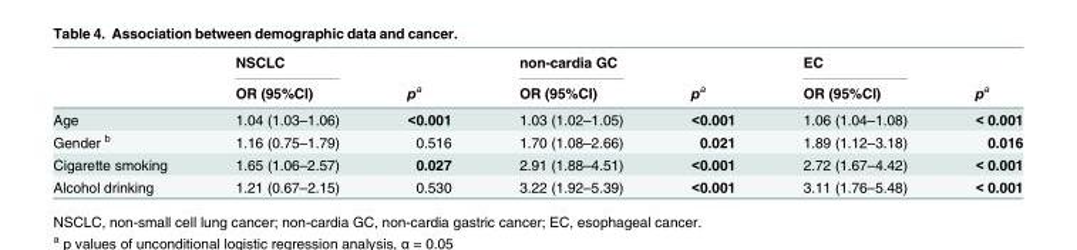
<table><thead><tr><td rowspan="2"></td><td rowspan="2">NSCLC OR (95%CI)</td><td rowspan="2">p<sup>a</sup></td><td rowspan="2">non-cardia GC OR (95%CI)</td><td rowspan="2">p<sup>a</sup></td><td rowspan="2">EC OR (95%CI)</td><td rowspan="2">p<sup>a</sup></td></tr><tr></tr></thead><tbody><tr><td>Age</td><td>1.04 (1.03–1.06)</td><td>&lt;0.001</td><td>1.03 (1.02–1.05)</td><td>&lt;0.001</td><td>1.06 (1.04–1.08)</td><td>&lt; 0.001</td></tr><tr><td>Gender <sup>b</sup></td><td>1.16 (0.75–1.79)</td><td>0.516</td><td>1.70 (1.08–2.66)</td><td>0.021</td><td>1.89 (1.12–3.18)</td><td>0.016</td></tr><tr><td>Cigarette smoking</td><td>1.65 (1.06–2.57)</td><td>0.027</td><td>2.91 (1.88–4.51)</td><td>&lt;0.001</td><td>2.72 (1.67–4.42)</td><td>&lt; 0.001</td></tr><tr><td>Alcohol drinking</td><td>1.21 (0.67–2.15)</td><td>0.530</td><td>3.22 (1.92–5.39)</td><td>&lt;0.001</td><td>3.11 (1.76–5.48)</td><td>&lt; 0.001</td></tr></tbody></table>